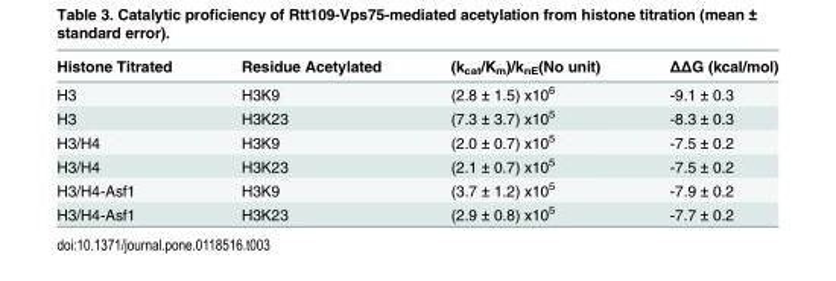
<table><thead><tr><td>Histone Titrated</td><td>Residue Acetylated</td><td>(k<sub>cat</sub>/K<sub>m</sub>)/k<sub>nE</sub>(No unit)</td><td>ΔΔG (kcal/mol)</td></tr></thead><tbody><tr><td>H3</td><td>H3K9</td><td>(2.8 ± 1.5) x10<sup>6</sup></td><td>-9.1 ± 0.3</td></tr><tr><td>H3</td><td>H3K23</td><td>(7.3 ± 3.7) x10<sup>5</sup></td><td>-8.3 ± 0.3</td></tr><tr><td>H3/H4</td><td>H3K9</td><td>(2.0 ± 0.7) x10<sup>5</sup></td><td>-7.5 ± 0.2</td></tr><tr><td>H3/H4</td><td>H3K23</td><td>(2.1 ± 0.7) x10<sup>5</sup></td><td>-7.5 ± 0.2</td></tr><tr><td>H3/H4-Asf1</td><td>H3K9</td><td>(3.7 ± 1.2) x10<sup>5</sup></td><td>-7.9 ± 0.2</td></tr><tr><td>H3/H4-Asf1</td><td>H3K23</td><td>(2.9 ± 0.8) x10<sup>5</sup></td><td>-7.7 ± 0.2</td></tr></tbody></table>